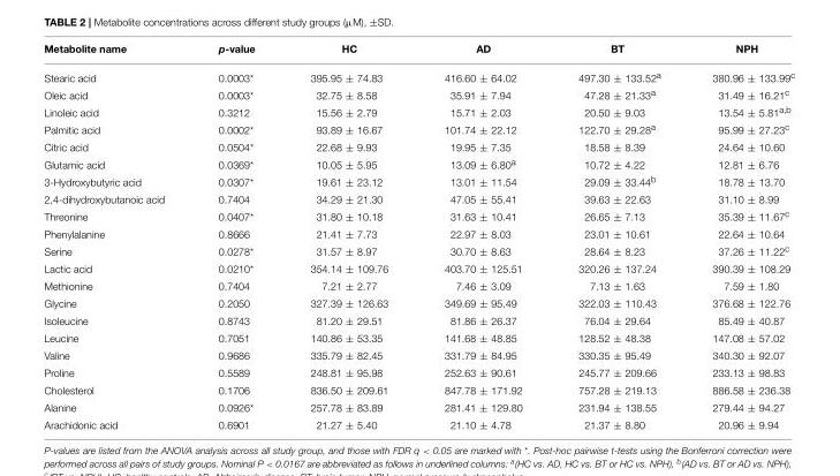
<table><thead><tr><td>Metabolite name</td><td>p-value</td><td>HC</td><td>AD</td><td>BT</td><td>NPH</td></tr></thead><tbody><tr><td>Stearic acid</td><td>0.0003*</td><td>395.95 ± 74.83</td><td>416.60 ± 64.02</td><td>497.30 ± 133.52<sup>a</sup></td><td>380.96 ± 133.99<sup>c</sup></td></tr><tr><td>Oleic acid</td><td>0.0003*</td><td>32.75 ± 8.58</td><td>35.91 ± 7.94</td><td>47.28 ± 21.33<sup>a</sup></td><td>31.49 ± 16.21<sup>c</sup></td></tr><tr><td>Linoleic acid</td><td>0.3212</td><td>15.56 ± 2.79</td><td>15.71 ± 2.03</td><td>20.50 ± 9.03</td><td>13.54 ± 5.81<sup>a,b</sup></td></tr><tr><td>Palmitic acid</td><td>0.0002*</td><td>93.89 ± 16.67</td><td>101.74 ± 22.12</td><td>122.70 ± 29.28<sup>a</sup></td><td>95.99 ± 27.23<sup>c</sup></td></tr><tr><td>Citric acid</td><td>0.0504*</td><td>22.68 ± 9.93</td><td>19.95 ± 7.35</td><td>18.58 ± 8.39</td><td>24.64 ± 10.60</td></tr><tr><td>Glutamic acid</td><td>0.0369*</td><td>10.05 ± 5.95</td><td>13.09 ± 6.80<sup>a</sup></td><td>10.72 ± 4.22</td><td>12.81 ± 6.76</td></tr><tr><td>3-Hydroxybutyric acid</td><td>0.0307*</td><td>19.61 ± 23.12</td><td>13.01 ± 11.54</td><td>29.09 ± 33.44<sup>b</sup></td><td>18.78 ± 13.70</td></tr><tr><td>2,4-dihydroxybutanoic acid</td><td>0.7404</td><td>34.29 ± 21.30</td><td>47.05 ± 55.41</td><td>39.63 ± 22.63</td><td>31.10 ± 8.99</td></tr><tr><td>Threonine</td><td>0.0407*</td><td>31.80 ± 10.18</td><td>31.63 ± 10.41</td><td>26.65 ± 7.13</td><td>35.39 ± 11.67<sup>c</sup></td></tr><tr><td>Phenylalanine</td><td>0.8666</td><td>21.41 ± 7.73</td><td>22.97 ± 8.03</td><td>23.01 ± 10.61</td><td>22.64 ± 10.64</td></tr><tr><td>Serine</td><td>0.0278*</td><td>31.57 ± 8.97</td><td>30.70 ± 8.63</td><td>28.64 ± 8.23</td><td>37.26 ± 11.22<sup>c</sup></td></tr><tr><td>Lactic acid</td><td>0.0210*</td><td>354.14 ± 109.76</td><td>403.70 ± 125.51</td><td>320.26 ± 137.24</td><td>390.39 ± 108.29</td></tr><tr><td>Methionine</td><td>0.7404</td><td>7.21 ± 2.77</td><td>7.46 ± 3.09</td><td>7.13 ± 1.63</td><td>7.59 ± 1.80</td></tr><tr><td>Glycine</td><td>0.2050</td><td>327.39 ± 126.63</td><td>349.69 ± 95.49</td><td>322.03 ± 110.43</td><td>376.68 ± 122.76</td></tr><tr><td>Isoleucine</td><td>0.8743</td><td>81.20 ± 29.51</td><td>81.86 ± 26.37</td><td>76.04 ± 29.64</td><td>85.49 ± 40.87</td></tr><tr><td>Leucine</td><td>0.7051</td><td>140.86 ± 53.35</td><td>141.68 ± 48.85</td><td>128.52 ± 48.38</td><td>147.08 ± 57.02</td></tr><tr><td>Valine</td><td>0.9686</td><td>335.79 ± 82.45</td><td>331.79 ± 84.95</td><td>330.35 ± 95.49</td><td>340.30 ± 92.07</td></tr><tr><td>Proline</td><td>0.5589</td><td>248.81 ± 95.98</td><td>252.63 ± 90.61</td><td>245.77 ± 209.66</td><td>233.13 ± 98.83</td></tr><tr><td>Cholesterol</td><td>0.1706</td><td>836.50 ± 209.61</td><td>847.78 ± 171.92</td><td>757.28 ± 219.13</td><td>886.58 ± 236.38</td></tr><tr><td>Alanine</td><td>0.0926*</td><td>257.78 ± 83.89</td><td>281.41 ± 129.80</td><td>231.94 ± 138.55</td><td>279.44 ± 94.27</td></tr><tr><td>Arachidonic acid</td><td>0.6901</td><td>21.27 ± 5.40</td><td>21.10 ± 4.78</td><td>21.37 ± 8.80</td><td>20.96 ± 9.94</td></tr></tbody></table>